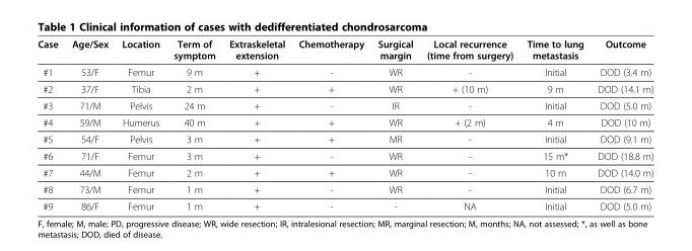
<table><thead><tr><td>Case</td><td>Age/Sex</td><td>Location</td><td>Term of symptom</td><td>Extraskeletal extension</td><td>Chemotherapy</td><td>Surgical margin</td><td>Local recurrence (time from surgery)</td><td>Time to lung metastasis</td><td>Outcome</td></tr></thead><tbody><tr><td>#1</td><td>53/F</td><td>Femur</td><td>9 m</td><td>+</td><td>-</td><td>WR</td><td>-</td><td>Initial</td><td>DOD (3.4 m)</td></tr><tr><td>#2</td><td>37/F</td><td>Tibia</td><td>2 m</td><td>+</td><td>+</td><td>WR</td><td>+ (10 m)</td><td>9 m</td><td>DOD (14.1 m)</td></tr><tr><td>#3</td><td>71/M</td><td>Pelvis</td><td>24 m</td><td>+</td><td>-</td><td>IR</td><td>-</td><td>Initial</td><td>DOD (5.0 m)</td></tr><tr><td>#4</td><td>59/M</td><td>Humerus</td><td>40 m</td><td>+</td><td>+</td><td>WR</td><td>+ (2 m)</td><td>4 m</td><td>DOD (10 m)</td></tr><tr><td>#5</td><td>54/F</td><td>Pelvis</td><td>3 m</td><td>+</td><td>+</td><td>MR</td><td>-</td><td>Initial</td><td>DOD (9.1 m)</td></tr><tr><td>#6</td><td>71/F</td><td>Femur</td><td>3 m</td><td>+</td><td>-</td><td>WR</td><td>-</td><td>15 m*</td><td>DOD (18.8 m)</td></tr><tr><td>#7</td><td>44/M</td><td>Femur</td><td>2 m</td><td>+</td><td>+</td><td>WR</td><td>-</td><td>10 m</td><td>DOD (14.0 m)</td></tr><tr><td>#8</td><td>73/M</td><td>Femur</td><td>1 m</td><td>+</td><td>-</td><td>WR</td><td>-</td><td>Initial</td><td>DOD (6.7 m)</td></tr><tr><td>#9</td><td>86/F</td><td>Femur</td><td>1 m</td><td>+</td><td>-</td><td>-</td><td>NA</td><td>Initial</td><td>DOD (5.0 m)</td></tr></tbody></table>